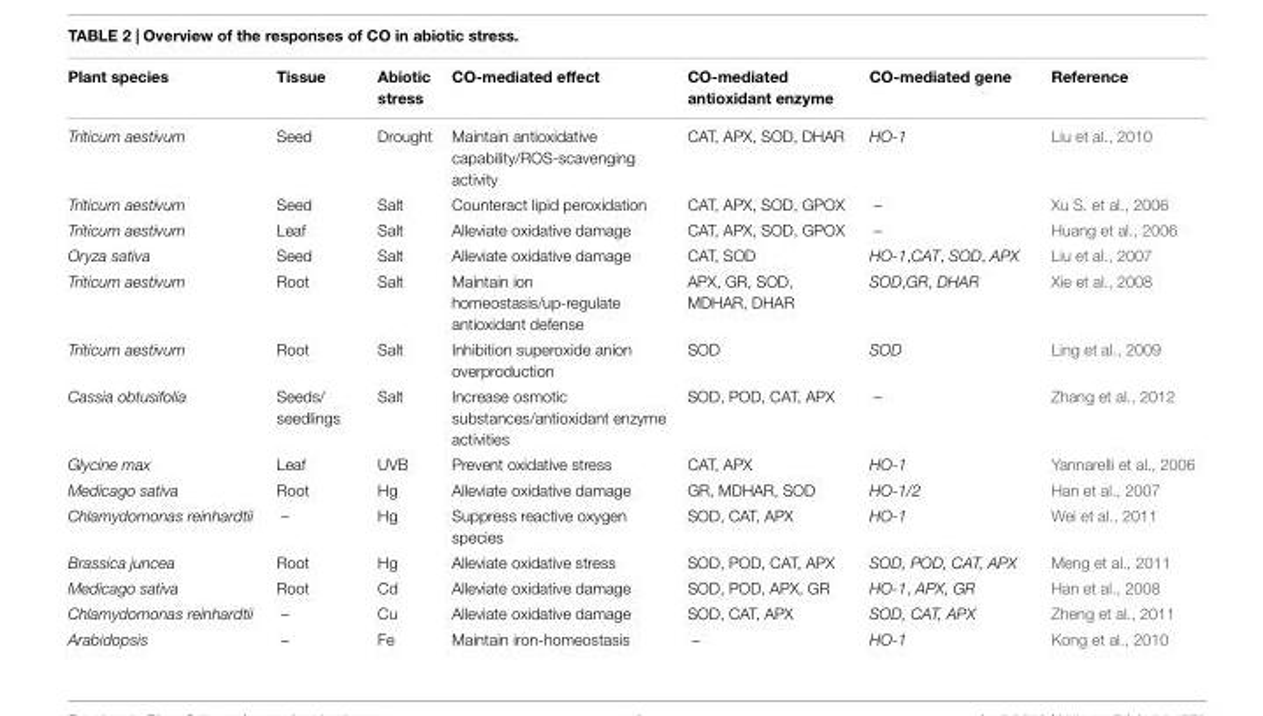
<table><thead><tr><td>Plant species</td><td>Tissue</td><td>Abiotic stress</td><td>CO-mediated effect</td><td>CO-mediated antioxidant enzyme</td><td>CO-mediated gene</td><td>Reference</td></tr></thead><tbody><tr><td>Triticum aestivum</td><td>Seed</td><td>Drought</td><td>Maintain antioxidative capability/ROS-scavenging activity</td><td>CAT, APX, SOD, DHAR</td><td>HO-1</td><td>Liu et al., 2010</td></tr><tr><td>Triticum aestivum</td><td>Seed</td><td>Salt</td><td>Counteract lipid peroxidation</td><td>CAT, APX, SOD, GPOX</td><td>–</td><td>Xu S. et al., 2006</td></tr><tr><td>Triticum aestivum</td><td>Leaf</td><td>Salt</td><td>Alleviate oxidative damage</td><td>CAT, APX, SOD, GPOX</td><td>–</td><td>Huang et al., 2006</td></tr><tr><td>Oryza sativa</td><td>Seed</td><td>Salt</td><td>Alleviate oxidative damage</td><td>CAT, SOD</td><td>HO-1,CAT, SOD, APX</td><td>Liu et al., 2007</td></tr><tr><td>Triticum aestivum</td><td>Root</td><td>Salt</td><td>Maintain ion homeostasis/up-regulate antioxidant defense</td><td>APX, GR, SOD, MDHAR, DHAR</td><td>SOD,GR, DHAR</td><td>Xie et al., 2008</td></tr><tr><td>Triticum aestivum</td><td>Root</td><td>Salt</td><td>Inhibition superoxide anion overproduction</td><td>SOD</td><td>SOD</td><td>Ling et al., 2009</td></tr><tr><td>Cassia obtusifolia</td><td>Seeds/ seedlings</td><td>Salt</td><td>Increase osmotic substances/antioxidant enzyme activities</td><td>SOD, POD, CAT, APX</td><td>–</td><td>Zhang et al., 2012</td></tr><tr><td>Glycine max</td><td>Leaf</td><td>UVB</td><td>Prevent oxidative stress</td><td>CAT, APX</td><td>HO-1</td><td>Yannarelli et al., 2006</td></tr><tr><td>Medicago sativa</td><td>Root</td><td>Hg</td><td>Alleviate oxidative damage</td><td>GR, MDHAR, SOD</td><td>HO-1/2</td><td>Han et al., 2007</td></tr><tr><td>Chlamydomonas reinhardtii</td><td>–</td><td>Hg</td><td>Suppress reactive oxygen species</td><td>SOD, CAT, APX</td><td>HO-1</td><td>Wei et al., 2011</td></tr><tr><td>Brassica juncea</td><td>Root</td><td>Hg</td><td>Alleviate oxidative stress</td><td>SOD, POD, CAT, APX</td><td>SOD, POD, CAT, APX</td><td>Meng et al., 2011</td></tr><tr><td>Medicago sativa</td><td>Root</td><td>Cd</td><td>Alleviate oxidative damage</td><td>SOD, POD, APX, GR</td><td>HO-1, APX, GR</td><td>Han et al., 2008</td></tr><tr><td>Chlamydomonas reinhardtii</td><td>–</td><td>Cu</td><td>Alleviate oxidative damage</td><td>SOD, CAT, APX</td><td>SOD, CAT, APX</td><td>Zheng et al., 2011</td></tr><tr><td>Arabidopsis</td><td>–</td><td>Fe</td><td>Maintain iron-homeostasis</td><td>–</td><td>HO-1</td><td>Kong et al., 2010</td></tr></tbody></table>